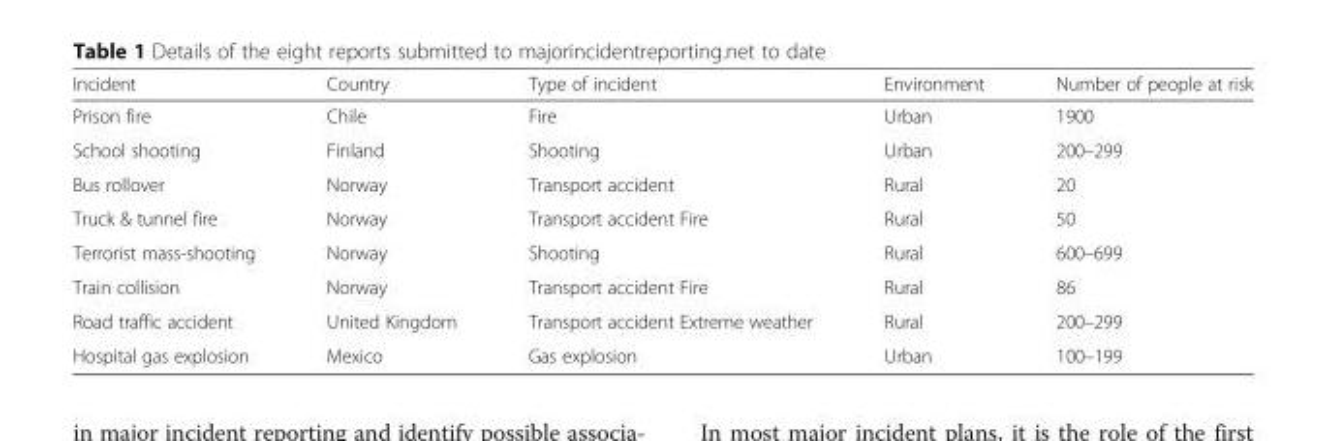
<table><thead><tr><td>Incident</td><td>Country</td><td>Type of incident</td><td>Environment</td><td>Number of people at risk</td></tr></thead><tbody><tr><td>Prison fire</td><td>Chile</td><td>Fire</td><td>Urban</td><td>1900</td></tr><tr><td>School shooting</td><td>Finland</td><td>Shooting</td><td>Urban</td><td>200–299</td></tr><tr><td>Bus rollover</td><td>Norway</td><td>Transport accident</td><td>Rural</td><td>20</td></tr><tr><td>Truck &amp; tunnel fire</td><td>Norway</td><td>Transport accident Fire</td><td>Rural</td><td>50</td></tr><tr><td>Terrorist mass-shooting</td><td>Norway</td><td>Shooting</td><td>Rural</td><td>600–699</td></tr><tr><td>Train collision</td><td>Norway</td><td>Transport accident Fire</td><td>Rural</td><td>86</td></tr><tr><td>Road traffic accident</td><td>United Kingdom</td><td>Transport accident Extreme weather</td><td>Rural</td><td>200–299</td></tr><tr><td>Hospital gas explosion</td><td>Mexico</td><td>Gas explosion</td><td>Urban</td><td>100–199</td></tr></tbody></table>